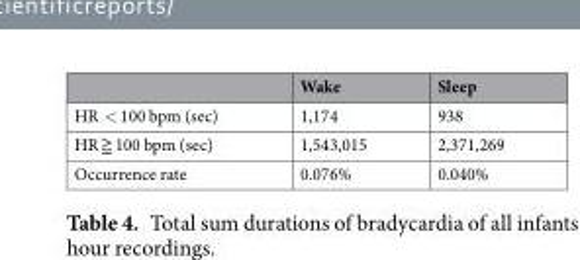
<table><thead><tr><td></td><td>Wake</td><td>Sleep</td></tr></thead><tbody><tr><td>HR &lt; 100 bpm (sec)</td><td>1,174</td><td>938</td></tr><tr><td>HR ≧ 100 bpm (sec)</td><td>1,543,015</td><td>2,371,269</td></tr><tr><td>Occurrence rate</td><td>0.076%</td><td>0.040%</td></tr></tbody></table>